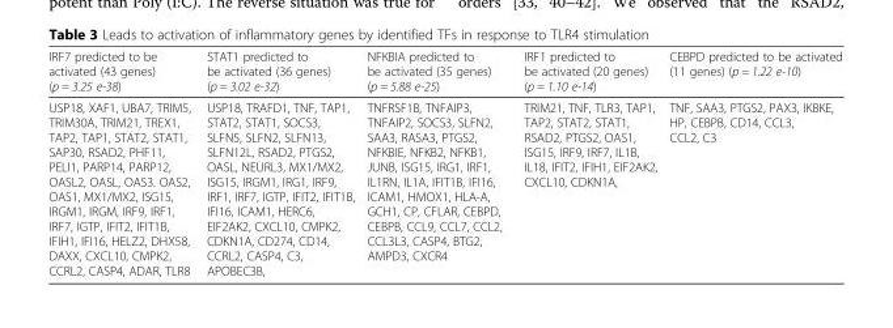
<table><thead><tr><td>IRF7 predicted to be activated (43 genes) (p = 3.25 e-38)</td><td>STAT1 predicted to be activated (36 genes) (p = 3.02 e-32)</td><td>NFKBIA predicted to be activated (35 genes) (p = 5.88 e-25)</td><td>IRF1 predicted to be activated (20 genes) (p = 1.10 e-14)</td><td>CEBPD predicted to be activated (11 genes) (p = 1.22 e-10)</td></tr></thead><tbody><tr><td>USP18, XAF1, UBA7, TRIM5, TRIM30A, TRIM21, TREX1, TAP2, TAP1, STAT2, STAT1, SAP30, RSAD2, PHF11, PELI1, PARP14, PARP12, OASL2, OASL, OAS3. OAS2, OAS1, MX1/MX2, ISG15, IRGM1, IRGM, IRF9, IRF1, IRF7, IGTP, IFIT2, IFIT1B, IFIH1, IFI16, HELZ2, DHX58, DAXX, CXCL10, CMPK2, CCRL2, CASP4, ADAR, TLR8</td><td>USP18, TRAFD1, TNF, TAP1, STAT2, STAT1, SOCS3, SLFN5, SLFN2, SLFN13, SLFN12L, RSAD2, PTGS2, OASL, NEURL3, MX1/MX2, ISG15, IRGM1, IRG1, IRF9, IRF1, IRF7, IGTP, IFIT2, IFIT1B, IFI16, ICAM1, HERC6, EIF2AK2, CXCL10, CMPK2, CDKN1A, CD274, CD14, CCRL2, CASP4, C3, APOBEC3B,</td><td>TNFRSF1B, TNFAIP3, TNFAIP2, SOCS3, SLFN2, SAA3, RASA3, PTGS2, NFKBIE, NFKB2, NFKB1, JUNB, ISG15, IRG1, IRF1, IL1RN, IL1A, IFIT1B, IFI16, ICAM1, HMOX1, HLA-A, GCH1, CP, CFLAR, CEBPD, CEBPB, CCL9, CCL7, CCL2, CCL3L3, CASP4, BTG2, AMPD3, CXCR4</td><td>TRIM21, TNF, TLR3, TAP1, TAP2, STAT2, STAT1, RSAD2, PTGS2, OAS1, ISG15, IRF9, IRF7, IL1B, IL18, IFIT2, IFIH1, EIF2AK2, CXCL10, CDKN1A,</td><td>TNF, SAA3, PTGS2, PAX3, IKBKE, HP, CEBPB, CD14, CCL3, CCL2, C3</td></tr></tbody></table>